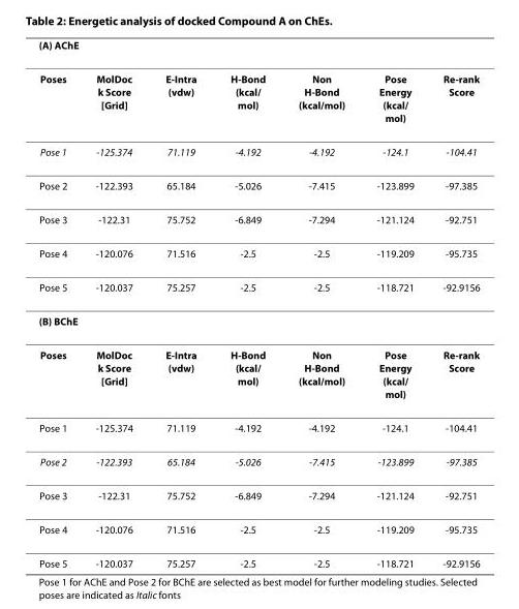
<table><thead><tr><td colspan="7">(A) AChE</td></tr><tr><td>Poses</td><td>MolDoc k Score [Grid]</td><td>E-Intra (vdw)</td><td>H-Bond (kcal/ mol)</td><td>Non H-Bond (kcal/mol)</td><td>Pose Energy (kcal/ mol)</td><td>Re-rank Score</td></tr></thead><tbody><tr><td>Pose 1</td><td>-125.374</td><td>71.119</td><td>-4.192</td><td>-4.192</td><td>-124.1</td><td>-104.41</td></tr><tr><td>Pose 2</td><td>-122.393</td><td>65.184</td><td>-5.026</td><td>-7.415</td><td>-123.899</td><td>-97.385</td></tr><tr><td>Pose 3</td><td>-122.31</td><td>75.752</td><td>-6.849</td><td>-7.294</td><td>-121.124</td><td>-92.751</td></tr><tr><td>Pose 4</td><td>-120.076</td><td>71.516</td><td>-2.5</td><td>-2.5</td><td>-119.209</td><td>-95.735</td></tr><tr><td>Pose 5</td><td>-120.037</td><td>75.257</td><td>-2.5</td><td>-2.5</td><td>-118.721</td><td>-92.9156</td></tr><tr><td colspan="7">(B) BChE</td></tr><tr><td>Poses</td><td>MolDoc k Score [Grid]</td><td>E-Intra (vdw)</td><td>H-Bond (kcal/ mol)</td><td>Non H-Bond (kcal/mol)</td><td>Pose Energy (kcal/ mol)</td><td>Re-rank Score</td></tr><tr><td>Pose 1</td><td>-125.374</td><td>71.119</td><td>-4.192</td><td>-4.192</td><td>-124.1</td><td>-104.41</td></tr><tr><td>Pose 2</td><td>-122.393</td><td>65.184</td><td>-5.026</td><td>-7.415</td><td>-123.899</td><td>-97.385</td></tr><tr><td>Pose 3</td><td>-122.31</td><td>75.752</td><td>-6.849</td><td>-7.294</td><td>-121.124</td><td>-92.751</td></tr><tr><td>Pose 4</td><td>-120.076</td><td>71.516</td><td>-2.5</td><td>-2.5</td><td>-119.209</td><td>-95.735</td></tr><tr><td>Pose 5</td><td>-120.037</td><td>75.257</td><td>-2.5</td><td>-2.5</td><td>-118.721</td><td>-92.9156</td></tr></tbody></table>